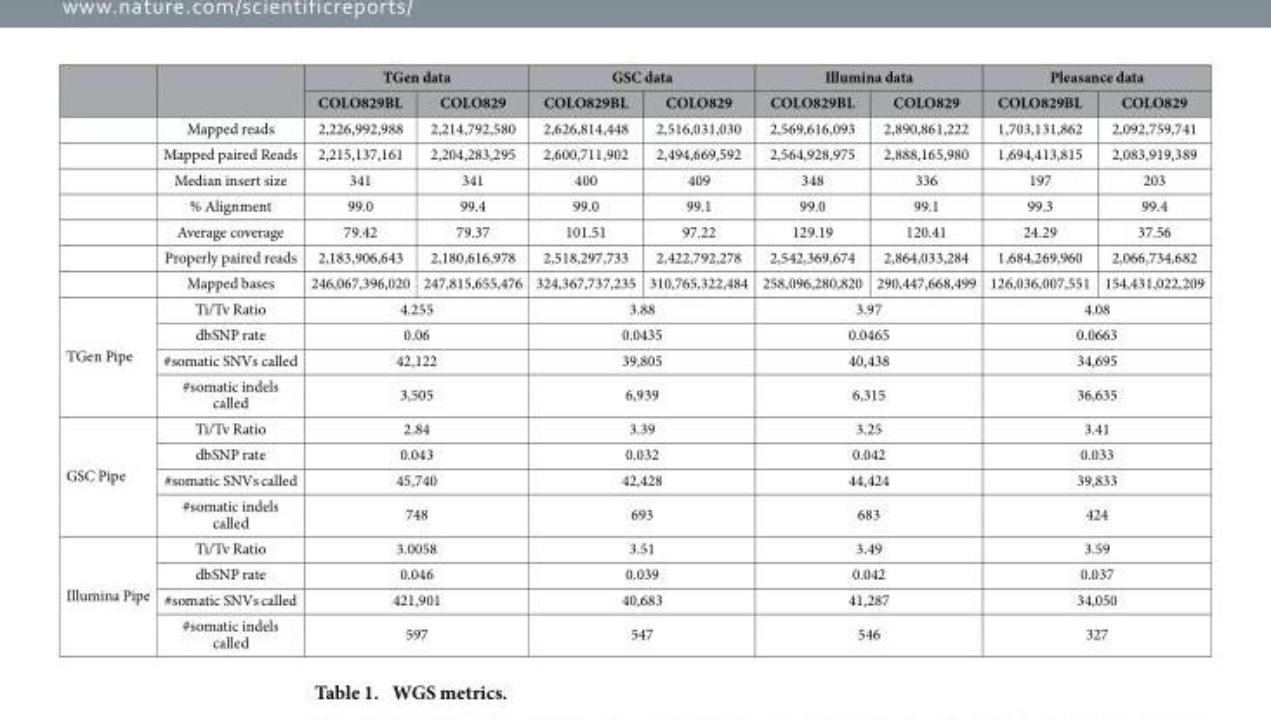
<table><thead><tr><td rowspan="2"></td><td rowspan="2"></td><td colspan="2">TGen data</td><td colspan="2">GSC data</td><td colspan="2">Illumina data</td><td colspan="2">Pleasance data</td></tr><tr><td>COLO829BL</td><td>COLO829</td><td>COLO829BL</td><td>COLO829</td><td>COLO829BL</td><td>COLO829</td><td>COLO829BL</td><td>COLO829</td></tr></thead><tbody><tr><td></td><td>Mapped reads</td><td>2,226,992,988</td><td>2,214,792,580</td><td>2,626,814,448</td><td>2,516,031,030</td><td>2,569,616,093</td><td>2,890,861,222</td><td>1,703,131,862</td><td>2,092,759,741</td></tr><tr><td></td><td>Mapped paired Reads</td><td>2,215,137,161</td><td>2,204,283,295</td><td>2,600,711,902</td><td>2,494,669,592</td><td>2,564,928,975</td><td>2,888,165,980</td><td>1,694,413,815</td><td>2,083,919,389</td></tr><tr><td></td><td>Median insert size</td><td>341</td><td>341</td><td>400</td><td>409</td><td>348</td><td>336</td><td>197</td><td>203</td></tr><tr><td></td><td>% Alignment</td><td>99.0</td><td>99.4</td><td>99.0</td><td>99.1</td><td>99.0</td><td>99.1</td><td>99.3</td><td>99.4</td></tr><tr><td></td><td>Average coverage</td><td>79.42</td><td>79.37</td><td>101.51</td><td>97.22</td><td>129.19</td><td>120.41</td><td>24.29</td><td>37.56</td></tr><tr><td></td><td>Properly paired reads</td><td>2,183,906,643</td><td>2,180,616,978</td><td>2,518,297,733</td><td>2,422,792,278</td><td>2,542,369,674</td><td>2,864,033,284</td><td>1,684,269,960</td><td>2,066,734,682</td></tr><tr><td></td><td>Mapped bases</td><td>246,067,396,020</td><td>247,815,655,476</td><td>324,367,737,235</td><td>310,765,322,484</td><td>258,096,280,820</td><td>290,447,668,499</td><td>126,036,007,551</td><td>154,431,022,209</td></tr><tr><td rowspan="4">TGen Pipe</td><td>Ti/Tv Ratio</td><td colspan="2">4.255</td><td colspan="2">3.88</td><td colspan="2">3.97</td><td colspan="2">4.08</td></tr><tr><td>dbSNP rate</td><td colspan="2">0.06</td><td colspan="2">0.0435</td><td colspan="2">0.0465</td><td colspan="2">0.0663</td></tr><tr><td>#somatic SNVs called</td><td colspan="2">42,122</td><td colspan="2">39,805</td><td colspan="2">40,438</td><td colspan="2">34,695</td></tr><tr><td>#somatic indels called</td><td colspan="2">3,505</td><td colspan="2">6,939</td><td colspan="2">6,315</td><td colspan="2">36,635</td></tr><tr><td rowspan="4">GSC Pipe</td><td>Ti/Tv Ratio</td><td colspan="2">2.84</td><td colspan="2">3.39</td><td colspan="2">3.25</td><td colspan="2">3.41</td></tr><tr><td>dbSNP rate</td><td colspan="2">0.043</td><td colspan="2">0.032</td><td colspan="2">0.042</td><td colspan="2">0.033</td></tr><tr><td>#somatic SNVs called</td><td colspan="2">45,740</td><td colspan="2">42,428</td><td colspan="2">44,424</td><td colspan="2">39,833</td></tr><tr><td>#somatic indels called</td><td colspan="2">748</td><td colspan="2">693</td><td colspan="2">683</td><td colspan="2">424</td></tr><tr><td rowspan="4">Illumina Pipe</td><td>Ti/Tv Ratio</td><td colspan="2">3.0058</td><td colspan="2">3.51</td><td colspan="2">3.49</td><td colspan="2">3.59</td></tr><tr><td>dbSNP rate</td><td colspan="2">0.046</td><td colspan="2">0.039</td><td colspan="2">0.042</td><td colspan="2">0.037</td></tr><tr><td>#somatic SNVs called</td><td colspan="2">421,901</td><td colspan="2">40,683</td><td colspan="2">41,287</td><td colspan="2">34,050</td></tr><tr><td>#somatic indels called</td><td colspan="2">597</td><td colspan="2">547</td><td colspan="2">546</td><td colspan="2">327</td></tr></tbody></table>